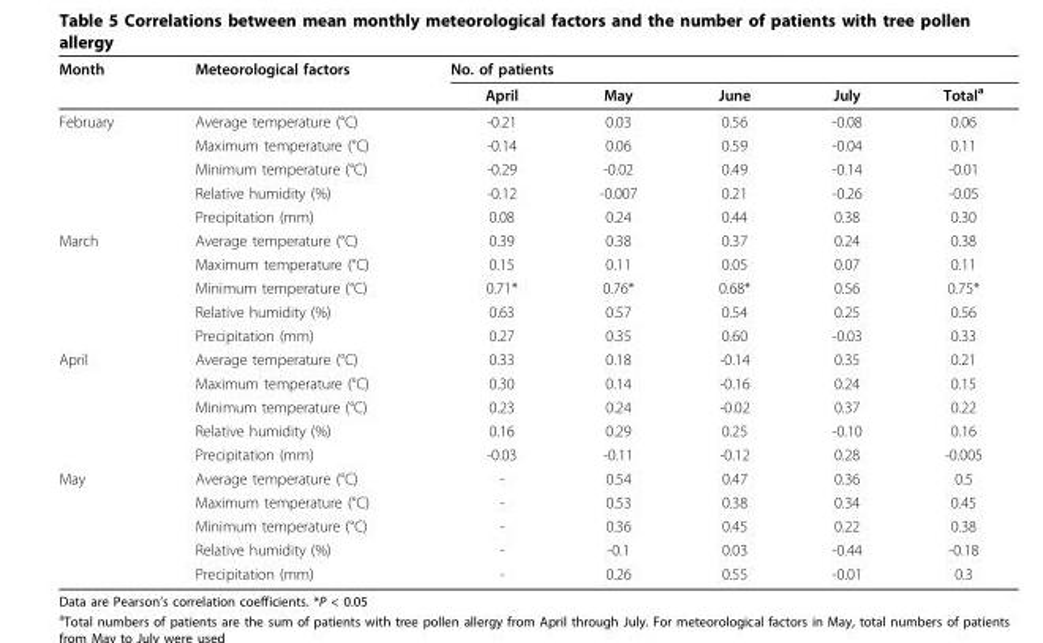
<table><tbody><tr><td rowspan="2">Month</td><td>Meteorological factors</td><td colspan="5">No. of patients</td></tr><tr><td></td><td>April</td><td>May</td><td>June</td><td>July</td><td>Total<sup>a</sup></td></tr><tr><td rowspan="5">February</td><td>Average temperature (°C)</td><td>-0.21</td><td>0.03</td><td>0.56</td><td>-0.08</td><td>0.06</td></tr><tr><td>Maximum temperature (°C)</td><td>-0.14</td><td>0.06</td><td>0.59</td><td>-0.04</td><td>0.11</td></tr><tr><td>Minimum temperature (°C)</td><td>-0.29</td><td>-0.02</td><td>0.49</td><td>-0.14</td><td>-0.01</td></tr><tr><td>Relative humidity (%)</td><td>-0.12</td><td>-0.007</td><td>0.21</td><td>-0.26</td><td>-0.05</td></tr><tr><td>Precipitation (mm)</td><td>0.08</td><td>0.24</td><td>0.44</td><td>0.38</td><td>0.30</td></tr><tr><td rowspan="5">March</td><td>Average temperature (°C)</td><td>0.39</td><td>0.38</td><td>0.37</td><td>0.24</td><td>0.38</td></tr><tr><td>Maximum temperature (°C)</td><td>0.15</td><td>0.11</td><td>0.05</td><td>0.07</td><td>0.11</td></tr><tr><td>Minimum temperature (°C)</td><td>0.71*</td><td>0.76*</td><td>0.68*</td><td>0.56</td><td>0.75*</td></tr><tr><td>Relative humidity (%)</td><td>0.63</td><td>0.57</td><td>0.54</td><td>0.25</td><td>0.56</td></tr><tr><td>Precipitation (mm)</td><td>0.27</td><td>0.35</td><td>0.60</td><td>-0.03</td><td>0.33</td></tr><tr><td rowspan="5">April</td><td>Average temperature (°C)</td><td>0.33</td><td>0.18</td><td>-0.14</td><td>0.35</td><td>0.21</td></tr><tr><td>Maximum temperature (°C)</td><td>0.30</td><td>0.14</td><td>-0.16</td><td>0.24</td><td>0.15</td></tr><tr><td>Minimum temperature (°C)</td><td>0.23</td><td>0.24</td><td>-0.02</td><td>0.37</td><td>0.22</td></tr><tr><td>Relative humidity (%)</td><td>0.16</td><td>0.29</td><td>0.25</td><td>-0.10</td><td>0.16</td></tr><tr><td>Precipitation (mm)</td><td>-0.03</td><td>-0.11</td><td>-0.12</td><td>0.28</td><td>-0.005</td></tr><tr><td rowspan="5">May</td><td>Average temperature (°C)</td><td>-</td><td>0.54</td><td>0.47</td><td>0.36</td><td>0.5</td></tr><tr><td>Maximum temperature (°C)</td><td>-</td><td>0.53</td><td>0.38</td><td>0.34</td><td>0.45</td></tr><tr><td>Minimum temperature (°C)</td><td>-</td><td>0.36</td><td>0.45</td><td>0.22</td><td>0.38</td></tr><tr><td>Relative humidity (%)</td><td>-</td><td>-0.1</td><td>0.03</td><td>-0.44</td><td>-0.18</td></tr><tr><td>Precipitation (mm)</td><td>-</td><td>0.26</td><td>0.55</td><td>-0.01</td><td>0.3</td></tr></tbody></table>